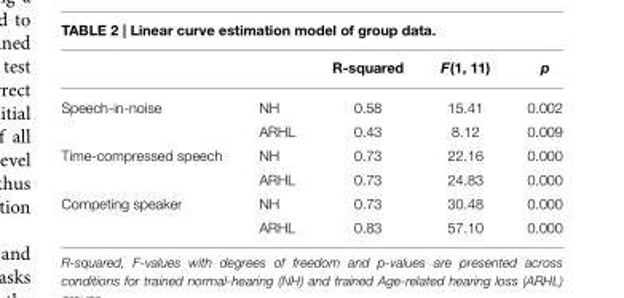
<table><thead><tr><td></td><td></td><td>R-squared</td><td>F(1, 11)</td><td>p</td></tr></thead><tbody><tr><td rowspan="2">Speech-in-noise</td><td>NH</td><td>0.58</td><td>15.41</td><td>0.002</td></tr><tr><td>ARHL</td><td>0.43</td><td>8.12</td><td>0.009</td></tr><tr><td rowspan="2">Time-compressed speech</td><td>NH</td><td>0.73</td><td>22.16</td><td>0.000</td></tr><tr><td>ARHL</td><td>0.73</td><td>24.83</td><td>0.000</td></tr><tr><td rowspan="2">Competing speaker</td><td>NH</td><td>0.73</td><td>30.48</td><td>0.000</td></tr><tr><td>ARHL</td><td>0.83</td><td>57.10</td><td>0.000</td></tr></tbody></table>